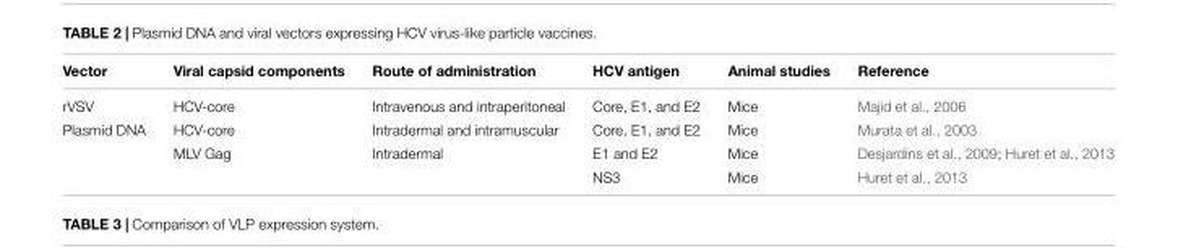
<table><thead><tr><td>Vector</td><td>Viral capsid components</td><td>Route of administration</td><td>HCV antigen</td><td>Animal studies</td><td>Reference</td></tr></thead><tbody><tr><td>rVSV</td><td>HCV-core</td><td>Intravenous and intraperitoneal</td><td>Core, E1, and E2</td><td>Mice</td><td>Majid et al., 2006</td></tr><tr><td rowspan="3">Plasmid DNA</td><td>HCV-core</td><td>Intradermal and intramuscular</td><td>Core, E1, and E2</td><td>Mice</td><td>Murata et al., 2003</td></tr><tr><td>MLV Gag</td><td>Intradermal</td><td>E1 and E2</td><td>Mice</td><td>Desjardins et al., 2009; Huret et al., 2013</td></tr><tr><td></td><td></td><td>NS3</td><td>Mice</td><td>Huret et al., 2013</td></tr></tbody></table>